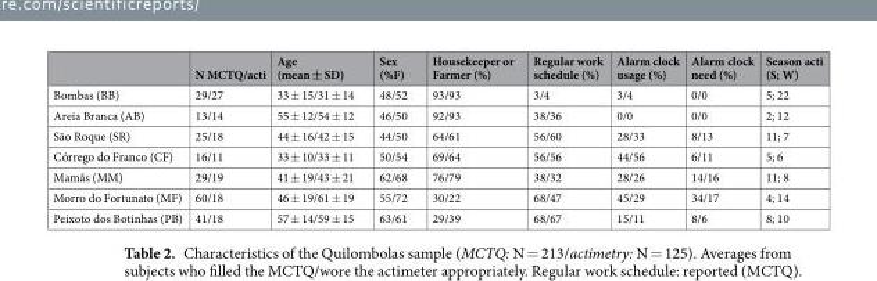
<table><thead><tr><td></td><td>N MCTQ/acti</td><td>Age (mean ± SD)</td><td>Sex (%F)</td><td>Housekeeper or Farmer (%)</td><td>Regular work schedule (%)</td><td>Alarm clock usage (%)</td><td>Alarm clock need (%)</td><td>Season acti (S; W)</td></tr></thead><tbody><tr><td>Bombas (BB)</td><td>29/27</td><td>33 ± 15/31 ± 14</td><td>48/52</td><td>93/93</td><td>3/4</td><td>3/4</td><td>0/0</td><td>5; 22</td></tr><tr><td>Areia Branca (AB)</td><td>13/14</td><td>55 ± 12/54 ± 12</td><td>46/50</td><td>92/93</td><td>38/36</td><td>0/0</td><td>0/0</td><td>2; 12</td></tr><tr><td>São Roque (SR)</td><td>25/18</td><td>44 ± 16/42 ± 15</td><td>44/50</td><td>64/61</td><td>56/60</td><td>28/33</td><td>8/13</td><td>11; 7</td></tr><tr><td>Córrego do Franco (CF)</td><td>16/11</td><td>33 ± 10/33 ± 11</td><td>50/54</td><td>69/64</td><td>56/56</td><td>44/56</td><td>6/11</td><td>5; 6</td></tr><tr><td>Mamãs (MM)</td><td>29/19</td><td>41 ± 19/43 ± 21</td><td>62/68</td><td>76/79</td><td>38/32</td><td>28/26</td><td>14/16</td><td>11; 8</td></tr><tr><td>Morro do Fortunato (MF)</td><td>60/18</td><td>46 ± 19/61 ± 19</td><td>55/72</td><td>30/22</td><td>68/47</td><td>45/29</td><td>34/17</td><td>4; 14</td></tr><tr><td>Peixoto dos Botinhas (PB)</td><td>41/18</td><td>57 ± 14/59 ± 15</td><td>63/61</td><td>29/39</td><td>68/67</td><td>15/11</td><td>8/6</td><td>8; 10</td></tr></tbody></table>